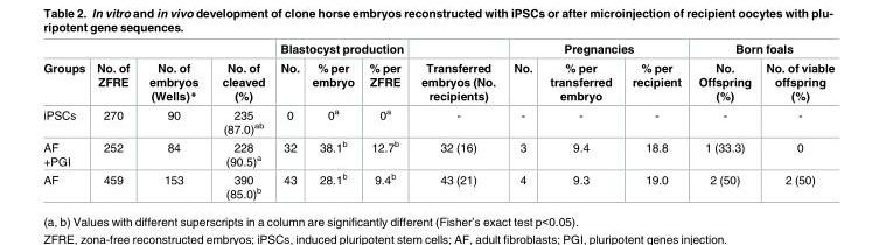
<table><thead><tr><td rowspan="2">Groups</td><td rowspan="2">No. of ZFRE</td><td rowspan="2">No. of embryos (Wells)*</td><td rowspan="2">No. of cleaved (%)</td><td colspan="3">Blastocyst production</td><td rowspan="2">Transferred embryos (No. recipients)</td><td colspan="3">Pregnancies</td><td colspan="2">Born foals</td></tr><tr><td>No.</td><td>% per embryo</td><td>% per ZFRE</td><td>No.</td><td>% per transferred embryo</td><td>% per recipient</td><td>No. Offspring (%)</td><td>No. of viable offspring (%)</td></tr></thead><tbody><tr><td>iPSCs</td><td>270</td><td>90</td><td>235 (87.0)<sup>ab</sup></td><td>0</td><td>0<sup>a</sup></td><td>0<sup>a</sup></td><td>-</td><td>-</td><td>-</td><td>-</td><td>-</td><td>-</td></tr><tr><td>AF +PGI</td><td>252</td><td>84</td><td>228 (90.5)<sup>a</sup></td><td>32</td><td>38.1<sup>b</sup></td><td>12.7<sup>b</sup></td><td>32 (16)</td><td>3</td><td>9.4</td><td>18.8</td><td>1 (33.3)</td><td>0</td></tr><tr><td>AF</td><td>459</td><td>153</td><td>390 (85.0)<sup>b</sup></td><td>43</td><td>28.1<sup>b</sup></td><td>9.4<sup>b</sup></td><td>43 (21)</td><td>4</td><td>9.3</td><td>19.0</td><td>2 (50)</td><td>2 (50)</td></tr></tbody></table>